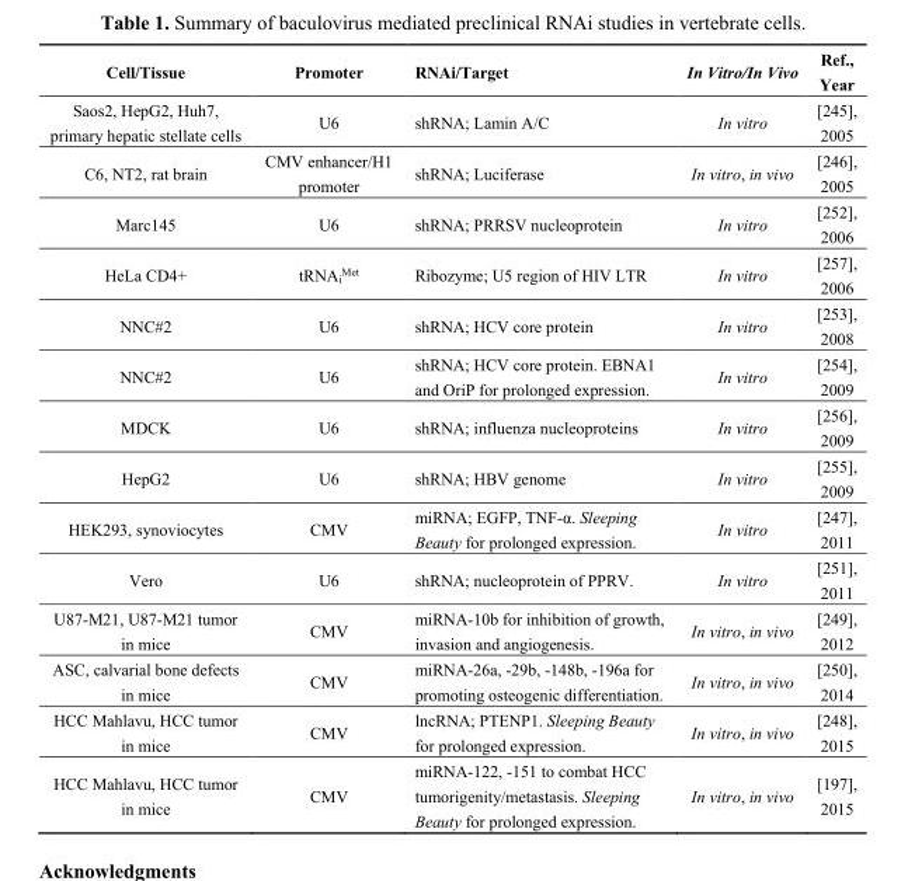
<table><thead><tr><td>Cell/Tissue</td><td>Promoter</td><td>RNAi/Target</td><td>In Vitro/In Vivo</td><td>Ref., Year</td></tr></thead><tbody><tr><td>Saos2, HepG2, Huh7, primary hepatic stellate cells</td><td>U6</td><td>shRNA; Lamin A/C</td><td>In vitro</td><td>[245], 2005</td></tr><tr><td>C6, NT2, rat brain</td><td>CMV enhancer/H1 promoter</td><td>shRNA; Luciferase</td><td>In vitro, in vivo</td><td>[246], 2005</td></tr><tr><td>Marc145</td><td>U6</td><td>shRNA; PRRSV nucleoprotein</td><td>In vitro</td><td>[252], 2006</td></tr><tr><td>HeLa CD4+</td><td>tRNA<sub>i</sub><sup>Met</sup></td><td>Ribozyme; U5 region of HIV LTR</td><td>In vitro</td><td>[257], 2006</td></tr><tr><td>NNC#2</td><td>U6</td><td>shRNA; HCV core protein</td><td>In vitro</td><td>[253], 2008</td></tr><tr><td>NNC#2</td><td>U6</td><td>shRNA; HCV core protein. EBNA1 and OriP for prolonged expression.</td><td>In vitro</td><td>[254], 2009</td></tr><tr><td>MDCK</td><td>U6</td><td>shRNA; influenza nucleoproteins</td><td>In vitro</td><td>[256], 2009</td></tr><tr><td>HepG2</td><td>U6</td><td>shRNA; HBV genome</td><td>In vitro</td><td>[255], 2009</td></tr><tr><td>HEK293, synoviocytes</td><td>CMV</td><td>miRNA; EGFP, TNF-α. Sleeping Beauty for prolonged expression.</td><td>In vitro</td><td>[247], 2011</td></tr><tr><td>Vero</td><td>U6</td><td>shRNA; nucleoprotein of PPRV.</td><td>In vitro</td><td>[251], 2011</td></tr><tr><td>U87-M21, U87-M21 tumor in mice</td><td>CMV</td><td>miRNA-10b for inhibition of growth, invasion and angiogenesis.</td><td>In vitro, in vivo</td><td>[249], 2012</td></tr><tr><td>ASC, calvarial bone defects in mice</td><td>CMV</td><td>miRNA-26a, -29b, -148b, -196a for promoting osteogenic differentiation.</td><td>In vitro, in vivo</td><td>[250], 2014</td></tr><tr><td>HCC Mahlavu, HCC tumor in mice</td><td>CMV</td><td>lncRNA; PTENP1. Sleeping Beauty for prolonged expression.</td><td>In vitro, in vivo</td><td>[248], 2015</td></tr><tr><td>HCC Mahlavu, HCC tumor in mice</td><td>CMV</td><td>miRNA-122, -151 to combat HCC tumorigenity/metastasis. Sleeping Beauty for prolonged expression.</td><td>In vitro, in vivo</td><td>[197], 2015</td></tr></tbody></table>